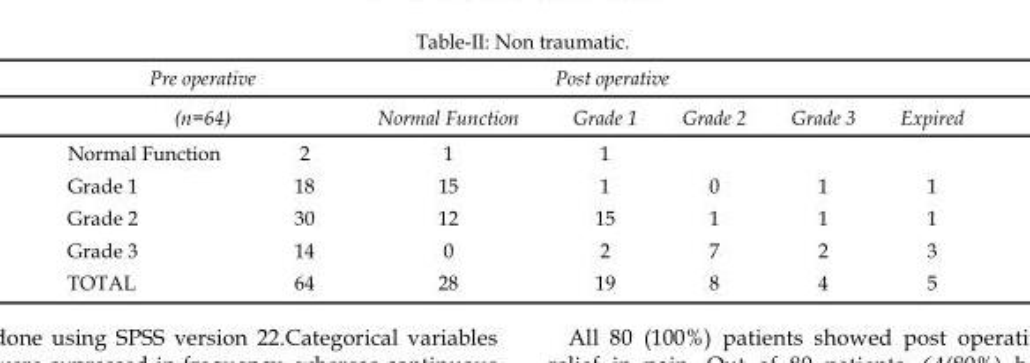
<table><thead><tr><td rowspan="2" colspan="2">Pre operative (n=64)</td><td colspan="4">Post operative</td><td rowspan="3">Expired</td></tr><tr><td rowspan="2">Normal Function 1</td><td rowspan="2">Grade 1 1</td><td rowspan="2">Grade 2</td><td rowspan="2">Grade 3</td></tr><tr><td>Normal Function</td><td>2</td></tr></thead><tbody><tr><td>Grade 1</td><td>18</td><td>15</td><td>1</td><td>0</td><td>1</td><td>1</td></tr><tr><td>Grade 2</td><td>30</td><td>12</td><td>15</td><td>1</td><td>1</td><td>1</td></tr><tr><td>Grade 3</td><td>14</td><td>0</td><td>2</td><td>7</td><td>2</td><td>3</td></tr><tr><td>TOTAL</td><td>64</td><td>28</td><td>19</td><td>8</td><td>4</td><td>5</td></tr></tbody></table>